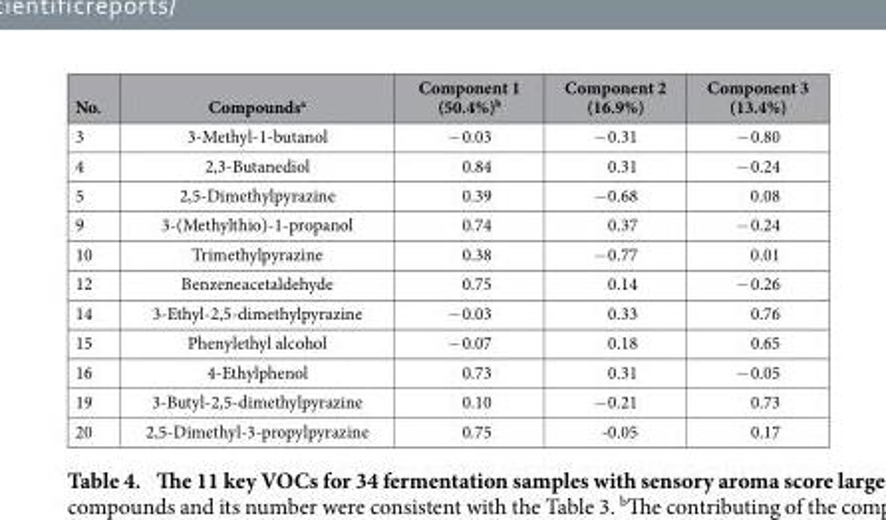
<table><thead><tr><td>No.</td><td>Compounds<sup>a</sup></td><td>Component 1 (50.4%)<sup>b</sup></td><td>Component 2 (16.9%)</td><td>Component 3 (13.4%)</td></tr></thead><tbody><tr><td>3</td><td>3-Methyl-1-butanol</td><td>− 0.03</td><td>− 0.31</td><td>− 0.80</td></tr><tr><td>4</td><td>2,3-Butanediol</td><td>0.84</td><td>0.31</td><td>− 0.24</td></tr><tr><td>5</td><td>2,5-Dimethylpyrazine</td><td>0.39</td><td>− 0.68</td><td>0.08</td></tr><tr><td>9</td><td>3-(Methylthio)-1-propanol</td><td>0.74</td><td>0.37</td><td>− 0.24</td></tr><tr><td>10</td><td>Trimethylpyrazine</td><td>0.38</td><td>− 0.77</td><td>0.01</td></tr><tr><td>12</td><td>Benzeneacetaldehyde</td><td>0.75</td><td>0.14</td><td>− 0.26</td></tr><tr><td>14</td><td>3-Ethyl-2,5-dimethylpyrazine</td><td>− 0.03</td><td>0.33</td><td>0.76</td></tr><tr><td>15</td><td>Phenylethyl alcohol</td><td>− 0.07</td><td>0.18</td><td>0.65</td></tr><tr><td>16</td><td>4-Ethylphenol</td><td>0.73</td><td>0.31</td><td>− 0.05</td></tr><tr><td>19</td><td>3-Butyl-2,5-dimethylpyrazine</td><td>0.10</td><td>− 0.21</td><td>0.73</td></tr><tr><td>20</td><td>2,5-Dimethyl-3-propylpyrazine</td><td>0.75</td><td>-0.05</td><td>0.17</td></tr></tbody></table>